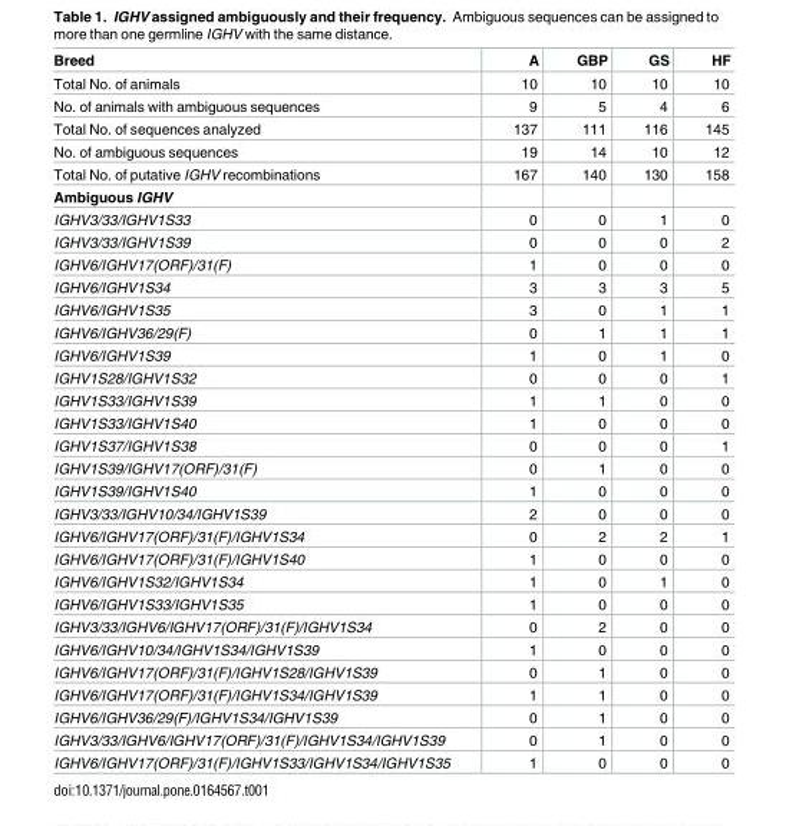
<table><thead><tr><td>Breed</td><td>A</td><td>GBP</td><td>GS</td><td>HF</td></tr></thead><tbody><tr><td>Total No. of animals</td><td>10</td><td>10</td><td>10</td><td>10</td></tr><tr><td>No. of animals with ambiguous sequences</td><td>9</td><td>5</td><td>4</td><td>6</td></tr><tr><td>Total No. of sequences analyzed</td><td>137</td><td>111</td><td>116</td><td>145</td></tr><tr><td>No. of ambiguous sequences</td><td>19</td><td>14</td><td>10</td><td>12</td></tr><tr><td>Total No. of putative IGHV recombinations</td><td>167</td><td>140</td><td>130</td><td>158</td></tr><tr><td colspan="5">Ambiguous IGHV</td></tr><tr><td>IGHV3/33/IGHV1S33</td><td>0</td><td>0</td><td>1</td><td>0</td></tr><tr><td>IGHV3/33/IGHV1S39</td><td>0</td><td>0</td><td>0</td><td>2</td></tr><tr><td>IGHV6/IGHV17(ORF)/31(F)</td><td>1</td><td>0</td><td>0</td><td>0</td></tr><tr><td>IGHV6/IGHV1S34</td><td>3</td><td>3</td><td>3</td><td>5</td></tr><tr><td>IGHV6/IGHV1S35</td><td>3</td><td>0</td><td>1</td><td>1</td></tr><tr><td>IGHV6/IGHV36/29(F)</td><td>0</td><td>1</td><td>1</td><td>1</td></tr><tr><td>IGHV6/IGHV1S39</td><td>1</td><td>0</td><td>1</td><td>0</td></tr><tr><td>IGHV1S28/IGHV1S32</td><td>0</td><td>0</td><td>0</td><td>1</td></tr><tr><td>IGHV1S33/IGHV1S39</td><td>1</td><td>1</td><td>0</td><td>0</td></tr><tr><td>IGHV1S33/IGHV1S40</td><td>1</td><td>0</td><td>0</td><td>0</td></tr><tr><td>IGHV1S37/IGHV1S38</td><td>0</td><td>0</td><td>0</td><td>1</td></tr><tr><td>IGHV1S39/IGHV17(ORF)/31(F)</td><td>0</td><td>1</td><td>0</td><td>0</td></tr><tr><td>IGHV1S39/IGHV1S40</td><td>1</td><td>0</td><td>0</td><td>0</td></tr><tr><td>IGHV3/33/IGHV10/34/IGHV1S39</td><td>2</td><td>0</td><td>0</td><td>0</td></tr><tr><td>IGHV6/IGHV17(ORF)/31(F)/IGHV1S34</td><td>0</td><td>2</td><td>2</td><td>1</td></tr><tr><td>IGHV6/IGHV17(ORF)/31(F)/IGHV1S40</td><td>1</td><td>0</td><td>0</td><td>0</td></tr><tr><td>IGHV6/IGHV1S32/IGHV1S34</td><td>1</td><td>0</td><td>1</td><td>0</td></tr><tr><td>IGHV6/IGHV1S33/IGHV1S35</td><td>1</td><td>0</td><td>0</td><td>0</td></tr><tr><td>IGHV3/33/IGHV6/IGHV17(ORF)/31(F)/IGHV1S34</td><td>0</td><td>2</td><td>0</td><td>0</td></tr><tr><td>IGHV6/IGHV10/34/IGHV1S34/IGHV1S39</td><td>1</td><td>0</td><td>0</td><td>0</td></tr><tr><td>IGHV6/IGHV17(ORF)/31(F)/IGHV1S28/IGHV1S39</td><td>0</td><td>1</td><td>0</td><td>0</td></tr><tr><td>IGHV6/IGHV17(ORF)/31(F)/IGHV1S34/IGHV1S39</td><td>1</td><td>1</td><td>0</td><td>0</td></tr><tr><td>IGHV6/IGHV36/29(F)/IGHV1S34/IGHV1S39</td><td>0</td><td>1</td><td>0</td><td>0</td></tr><tr><td>IGHV3/33/IGHV6/IGHV17(ORF)/31(F)/IGHV1S34/IGHV1S39</td><td>0</td><td>1</td><td>0</td><td>0</td></tr><tr><td>IGHV6/IGHV17(ORF)/31(F)/IGHV1S33/IGHV1S34/IGHV1S35</td><td>1</td><td>0</td><td>0</td><td>0</td></tr></tbody></table>